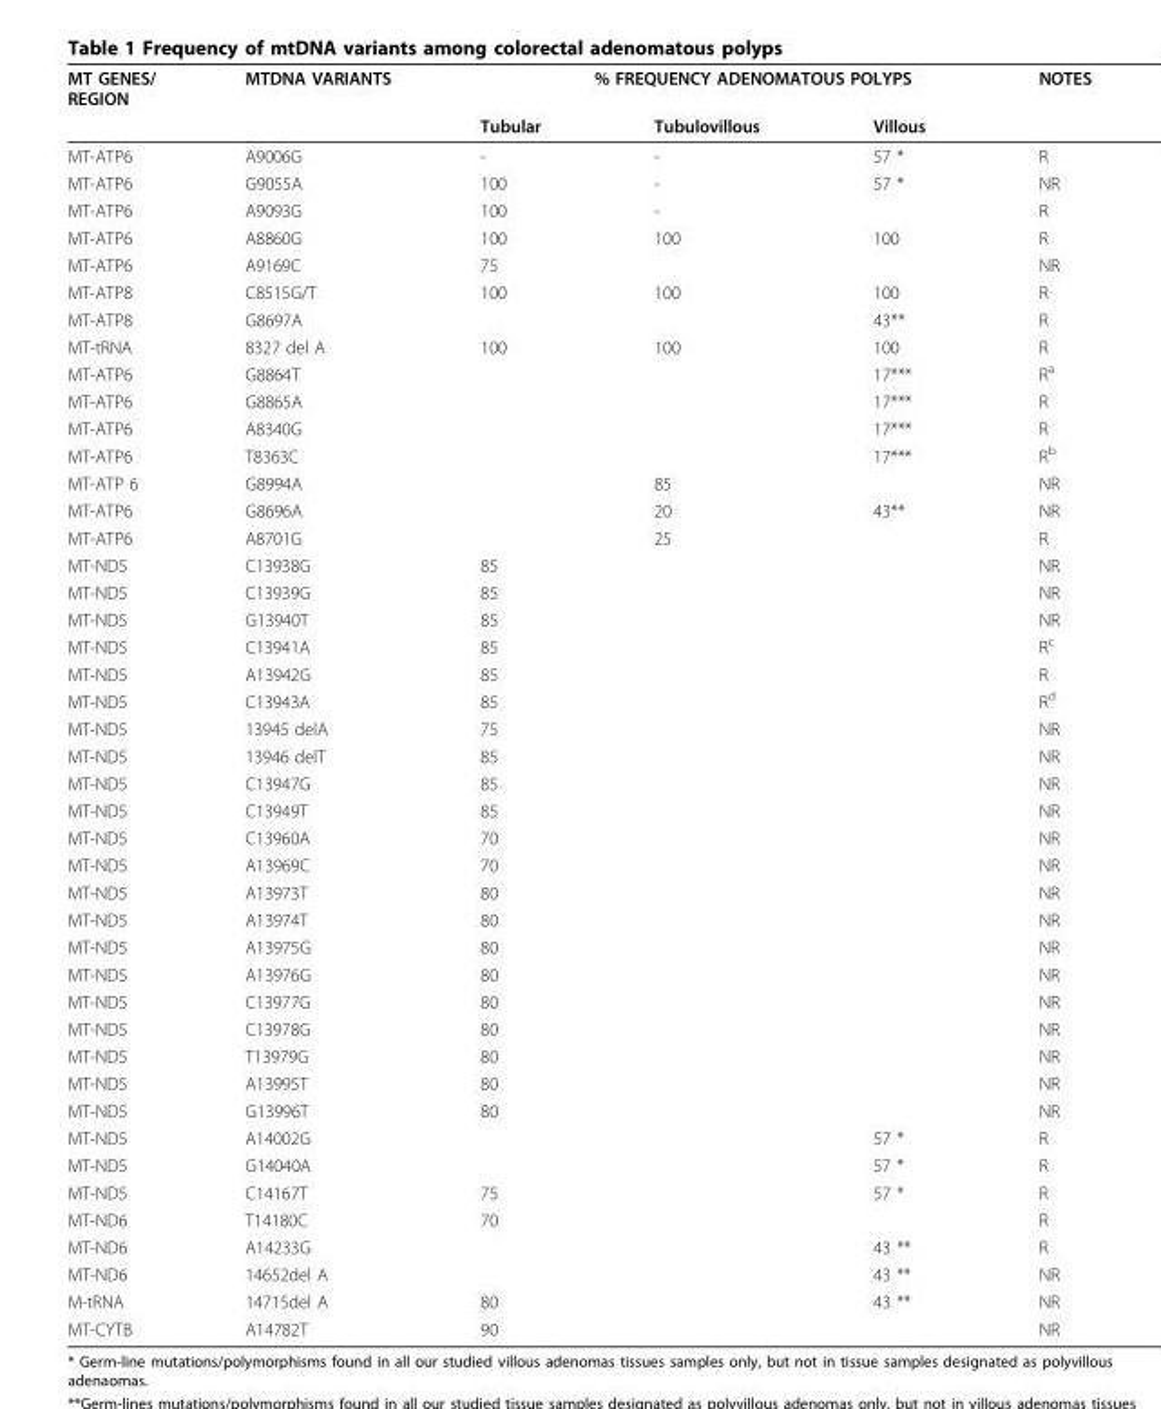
<table><thead><tr><td rowspan="2">MT GENES/ REGION</td><td rowspan="2">MTDNA VARIANTS</td><td colspan="3">% FREQUENCY ADENOMATOUS POLYPS</td><td rowspan="2">NOTES</td></tr><tr><td>Tubular</td><td>Tubulovillous</td><td>Villous</td></tr></thead><tbody><tr><td>MT-ATP6</td><td>A9006G</td><td>-</td><td>-</td><td>57 *</td><td>R</td></tr><tr><td>MT-ATP6</td><td>G9055A</td><td>100</td><td>-</td><td>57 *</td><td>NR</td></tr><tr><td>MT-ATP6</td><td>A9093G</td><td>100</td><td>-</td><td></td><td>R</td></tr><tr><td>MT-ATP6</td><td>A8860G</td><td>100</td><td>100</td><td>100</td><td>R</td></tr><tr><td>MT-ATP6</td><td>A9169C</td><td>75</td><td></td><td></td><td>NR</td></tr><tr><td>MT-ATP8</td><td>C8515G/T</td><td>100</td><td>100</td><td>100</td><td>R</td></tr><tr><td>MT-ATP8</td><td>G8697A</td><td></td><td></td><td>43**</td><td>R</td></tr><tr><td>MT-tRNA</td><td>8327 del A</td><td>100</td><td>100</td><td>100</td><td>R</td></tr><tr><td>MT-ATP6</td><td>G8864T</td><td></td><td></td><td>17***</td><td>R<sup>a</sup></td></tr><tr><td>MT-ATP6</td><td>G8865A</td><td></td><td></td><td>17***</td><td>R</td></tr><tr><td>MT-ATP6</td><td>A8340G</td><td></td><td></td><td>17***</td><td>R</td></tr><tr><td>MT-ATP6</td><td>T8363C</td><td></td><td></td><td>17***</td><td>R<sup>b</sup></td></tr><tr><td>MT-ATP 6</td><td>G8994A</td><td></td><td>85</td><td></td><td>NR</td></tr><tr><td>MT-ATP6</td><td>G8696A</td><td></td><td>20</td><td>43**</td><td>NR</td></tr><tr><td>MT-ATP6</td><td>A8701G</td><td></td><td>25</td><td></td><td>R</td></tr><tr><td>MT-ND5</td><td>C13938G</td><td>85</td><td></td><td></td><td>NR</td></tr><tr><td>MT-ND5</td><td>C13939G</td><td>85</td><td></td><td></td><td>NR</td></tr><tr><td>MT-ND5</td><td>G13940T</td><td>85</td><td></td><td></td><td>NR</td></tr><tr><td>MT-ND5</td><td>C13941A</td><td>85</td><td></td><td></td><td>R<sup>c</sup></td></tr><tr><td>MT-ND5</td><td>A13942G</td><td>85</td><td></td><td></td><td>R</td></tr><tr><td>MT-ND5</td><td>C13943A</td><td>85</td><td></td><td></td><td>R<sup>d</sup></td></tr><tr><td>MT-ND5</td><td>13945 delA</td><td>75</td><td></td><td></td><td>NR</td></tr><tr><td>MT-ND5</td><td>13946 delT</td><td>85</td><td></td><td></td><td>NR</td></tr><tr><td>MT-ND5</td><td>C13947G</td><td>85</td><td></td><td></td><td>NR</td></tr><tr><td>MT-ND5</td><td>C13949T</td><td>85</td><td></td><td></td><td>NR</td></tr><tr><td>MT-ND5</td><td>C13960A</td><td>70</td><td></td><td></td><td>NR</td></tr><tr><td>MT-ND5</td><td>A13969C</td><td>70</td><td></td><td></td><td>NR</td></tr><tr><td>MT-ND5</td><td>A13973T</td><td>80</td><td></td><td></td><td>NR</td></tr><tr><td>MT-ND5</td><td>A13974T</td><td>80</td><td></td><td></td><td>NR</td></tr><tr><td>MT-ND5</td><td>A13975G</td><td>80</td><td></td><td></td><td>NR</td></tr><tr><td>MT-ND5</td><td>A13976G</td><td>80</td><td></td><td></td><td>NR</td></tr><tr><td>MT-ND5</td><td>C13977G</td><td>80</td><td></td><td></td><td>NR</td></tr><tr><td>MT-ND5</td><td>C13978G</td><td>80</td><td></td><td></td><td>NR</td></tr><tr><td>MT-ND5</td><td>T13979G</td><td>80</td><td></td><td></td><td>NR</td></tr><tr><td>MT-ND5</td><td>A13995T</td><td>80</td><td></td><td></td><td>NR</td></tr><tr><td>MT-ND5</td><td>G13996T</td><td>80</td><td></td><td></td><td>NR</td></tr><tr><td>MT-ND5</td><td>A14002G</td><td></td><td></td><td>57 *</td><td>R</td></tr><tr><td>MT-ND5</td><td>G14040A</td><td></td><td></td><td>57 *</td><td>R</td></tr><tr><td>MT-ND5</td><td>C14167T</td><td>75</td><td></td><td>57 *</td><td>R</td></tr><tr><td>MT-ND6</td><td>T14180C</td><td>70</td><td></td><td></td><td>R</td></tr><tr><td>MT-ND6</td><td>A14233G</td><td></td><td></td><td>43 **</td><td>R</td></tr><tr><td>MT-ND6</td><td>14652del A</td><td></td><td></td><td>43 **</td><td>NR</td></tr><tr><td>M-tRNA</td><td>14715del A</td><td>80</td><td></td><td>43 **</td><td>NR</td></tr><tr><td>MT-CYTB</td><td>A14782T</td><td>90</td><td></td><td></td><td>NR</td></tr></tbody></table>